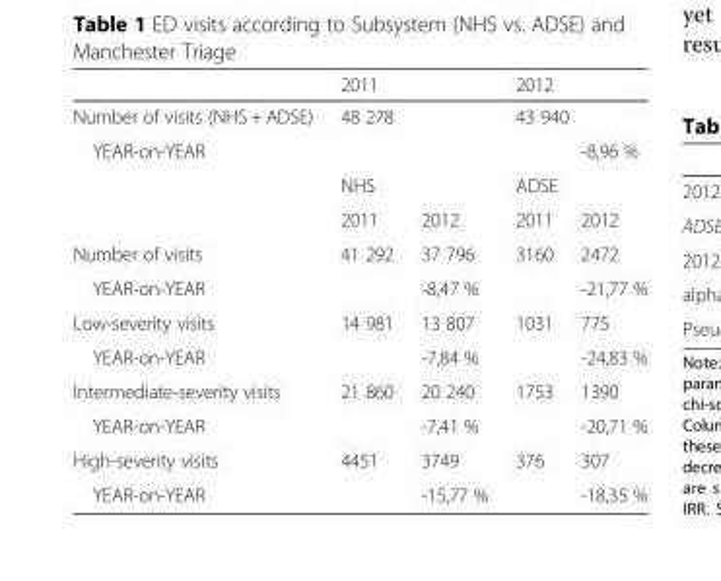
<table><thead><tr><td rowspan="3">Number of visits (NHS + ADSE) YEAR-on-YEAR</td><td rowspan="2" colspan="2">2011 48 278</td><td rowspan="2" colspan="2">2012 43 940</td></tr><tr></tr><tr><td></td><td></td><td></td><td>-8,96 %</td></tr></thead><tbody><tr><td rowspan="2"></td><td colspan="2">NHS</td><td colspan="2">ADSE</td></tr><tr><td>2011</td><td>2012</td><td>2011</td><td>2012</td></tr><tr><td>Number of visits</td><td>41 292</td><td>37 796</td><td>3160</td><td>2472</td></tr><tr><td>YEAR-on-YEAR</td><td></td><td>-8,47 %</td><td></td><td>-21,77 %</td></tr><tr><td>Low-severity visits</td><td>14 981</td><td>13 807</td><td>1031</td><td>775</td></tr><tr><td>YEAR-on-YEAR</td><td></td><td>-7,84 %</td><td></td><td>-24,83 %</td></tr><tr><td>Intermediate-severity visits</td><td>21 860</td><td>20 240</td><td>1753</td><td>1390</td></tr><tr><td>YEAR-on-YEAR</td><td></td><td>-7,41 %</td><td></td><td>-20,71 %</td></tr><tr><td>High-severity visits</td><td>4451</td><td>3749</td><td>376</td><td>307</td></tr><tr><td>YEAR-on-YEAR</td><td></td><td>-15,77 %</td><td></td><td>-18,35 %</td></tr></tbody></table>